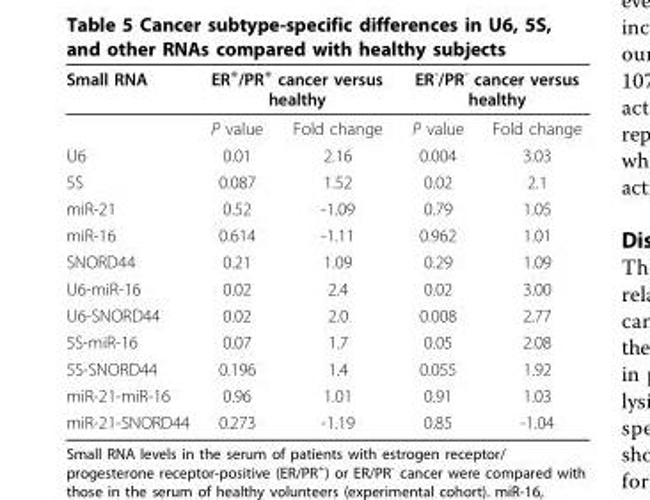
<table><thead><tr><td rowspan="2">Small RNA</td><td colspan="2">ER<sup>+</sup>/PR<sup>+</sup> cancer versus healthy</td><td colspan="2">ER<sup>-</sup>/PR<sup>-</sup> cancer versus healthy</td></tr><tr><td>P value</td><td>Fold change</td><td>P value</td><td>Fold change</td></tr></thead><tbody><tr><td>U6</td><td>0.01</td><td>2.16</td><td>0.004</td><td>3.03</td></tr><tr><td>5S</td><td>0.087</td><td>1.52</td><td>0.02</td><td>2.1</td></tr><tr><td>miR-21</td><td>0.52</td><td>-1.09</td><td>0.79</td><td>1.05</td></tr><tr><td>miR-16</td><td>0.614</td><td>-1.11</td><td>0.962</td><td>1.01</td></tr><tr><td>SNORD44</td><td>0.21</td><td>1.09</td><td>0.29</td><td>1.09</td></tr><tr><td>U6-miR-16</td><td>0.02</td><td>2.4</td><td>0.02</td><td>3.00</td></tr><tr><td>U6-SNORD44</td><td>0.02</td><td>2.0</td><td>0.008</td><td>2.77</td></tr><tr><td>5S-miR-16</td><td>0.07</td><td>1.7</td><td>0.05</td><td>2.08</td></tr><tr><td>5S-SNORD44</td><td>0.196</td><td>1.4</td><td>0.055</td><td>1.92</td></tr><tr><td>miR-21-miR-16</td><td>0.96</td><td>1.01</td><td>0.91</td><td>1.03</td></tr><tr><td>miR-21-SNORD44</td><td>0.273</td><td>-1.19</td><td>0.85</td><td>-1.04</td></tr></tbody></table>